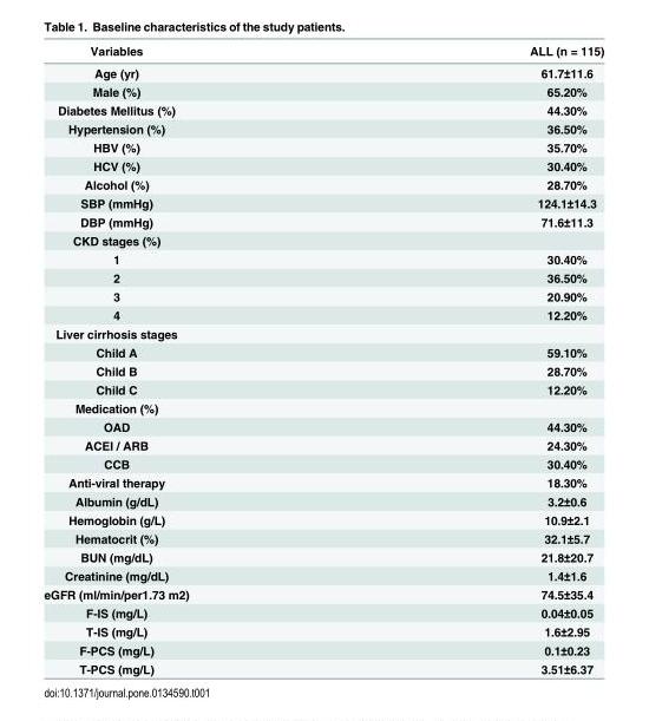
<table><thead><tr><td>Variables</td><td>ALL (n = 115)</td></tr></thead><tbody><tr><td>Age (yr)</td><td>61.7±11.6</td></tr><tr><td>Male (%)</td><td>65.20%</td></tr><tr><td>Diabetes Mellitus (%)</td><td>44.30%</td></tr><tr><td>Hypertension (%)</td><td>36.50%</td></tr><tr><td>HBV (%)</td><td>35.70%</td></tr><tr><td>HCV (%)</td><td>30.40%</td></tr><tr><td>Alcohol (%)</td><td>28.70%</td></tr><tr><td>SBP (mmHg)</td><td>124.1±14.3</td></tr><tr><td>DBP (mmHg)</td><td>71.6±11.3</td></tr><tr><td colspan="2">CKD stages (%)</td></tr><tr><td>1</td><td>30.40%</td></tr><tr><td>2</td><td>36.50%</td></tr><tr><td>3</td><td>20.90%</td></tr><tr><td>4</td><td>12.20%</td></tr><tr><td colspan="2">Liver cirrhosis stages</td></tr><tr><td>Child A</td><td>59.10%</td></tr><tr><td>Child B</td><td>28.70%</td></tr><tr><td>Child C</td><td>12.20%</td></tr><tr><td colspan="2">Medication (%)</td></tr><tr><td>OAD</td><td>44.30%</td></tr><tr><td>ACEI / ARB</td><td>24.30%</td></tr><tr><td>CCB</td><td>30.40%</td></tr><tr><td>Anti-viral therapy</td><td>18.30%</td></tr><tr><td>Albumin (g/dL)</td><td>3.2±0.6</td></tr><tr><td>Hemoglobin (g/L)</td><td>10.9±2.1</td></tr><tr><td>Hematocrit (%)</td><td>32.1±5.7</td></tr><tr><td>BUN (mg/dL)</td><td>21.8±20.7</td></tr><tr><td>Creatinine (mg/dL)</td><td>1.4±1.6</td></tr><tr><td>eGFR (ml/min/per1.73 m2)</td><td>74.5±35.4</td></tr><tr><td>F-IS (mg/L)</td><td>0.04±0.05</td></tr><tr><td>T-IS (mg/L)</td><td>1.6±2.95</td></tr><tr><td>F-PCS (mg/L)</td><td>0.1±0.23</td></tr><tr><td>T-PCS (mg/L)</td><td>3.51±6.37</td></tr></tbody></table>